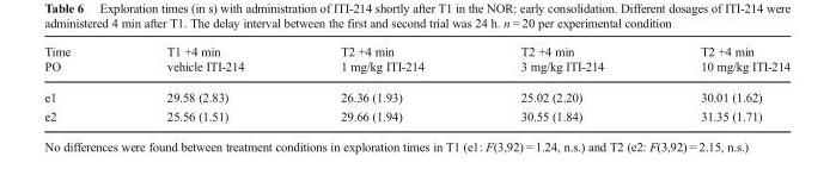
<table><thead><tr><td>Time PO</td><td>T1 +4 min vehicle ITI-214</td><td>T2 +4 min 1 mg/kg ITI-214</td><td>T2 +4 min 3 mg/kg ITI-214</td><td>T2 +4 min 10 mg/kg ITI-214</td></tr></thead><tbody><tr><td>e1</td><td>29.58 (2.83)</td><td>26.36 (1.93)</td><td>25.02 (2.20)</td><td>30.01 (1.62)</td></tr><tr><td>e2</td><td>25.56 (1.51)</td><td>29.66 (1.94)</td><td>30.55 (1.84)</td><td>31.35 (1.71)</td></tr></tbody></table>